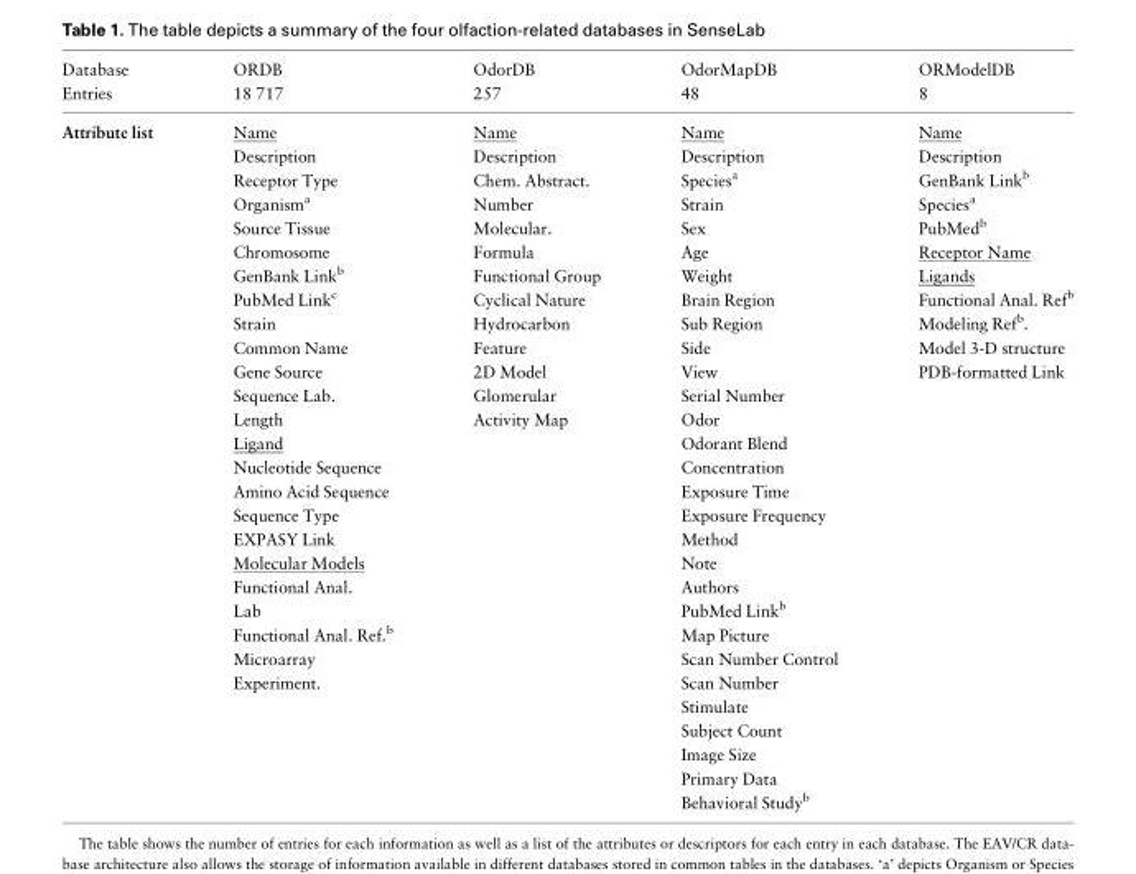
<table><thead><tr><td rowspan="2">Database Entries</td><td rowspan="2">ORDB 18 717</td><td rowspan="2">OdorDB 257</td><td rowspan="2">OdorMapDB 48</td><td rowspan="2">ORModelDB 8</td></tr><tr></tr></thead><tbody><tr><td rowspan="29">Attribute list</td><td>Name</td><td>Name</td><td>Name</td><td>Name</td></tr><tr><td>Description</td><td>Description</td><td>Description</td><td>Description</td></tr><tr><td>Receptor Type</td><td>Chem. Abstract.</td><td>Species<sup>a</sup></td><td>GenBank Link<sup>b</sup></td></tr><tr><td>Organism<sup>a</sup></td><td>Number</td><td>Strain</td><td>Species<sup>a</sup></td></tr><tr><td>Source Tissue</td><td>Molecular.</td><td>Sex</td><td>PubMed<sup>b</sup></td></tr><tr><td>Chromosome</td><td>Formula</td><td>Age</td><td>Receptor Name</td></tr><tr><td>GenBank Link<sup>b</sup></td><td>Functional Group</td><td>Weight</td><td>Ligands</td></tr><tr><td>PubMed Link<sup>c</sup></td><td>Cyclical Nature</td><td>Brain Region</td><td>Functional Anal. Ref<sup>b</sup></td></tr><tr><td>Strain</td><td>Hydrocarbon</td><td>Sub Region</td><td>Modeling Ref<sup>b</sup>.</td></tr><tr><td>Common Name</td><td>Feature</td><td>Side</td><td>Model 3-D structure</td></tr><tr><td>Gene Source</td><td>2D Model</td><td>View</td><td>PDB-formatted Link</td></tr><tr><td>Sequence Lab.</td><td>Glomerular</td><td>Serial Number</td><td></td></tr><tr><td>Length</td><td>Activity Map</td><td>Odor</td><td></td></tr><tr><td>Ligand</td><td></td><td>Odorant Blend</td><td></td></tr><tr><td>Nucleotide Sequence</td><td></td><td>Concentration</td><td></td></tr><tr><td>Amino Acid Sequence</td><td></td><td>Exposure Time</td><td></td></tr><tr><td>Sequence Type</td><td></td><td>Exposure Frequency</td><td></td></tr><tr><td>EXPASY Link</td><td></td><td>Method</td><td></td></tr><tr><td>Molecular Models</td><td></td><td>Note</td><td></td></tr><tr><td>Functional Anal.</td><td></td><td>Authors</td><td></td></tr><tr><td>Lab</td><td></td><td>PubMed Link<sup>b</sup></td><td></td></tr><tr><td>Functional Anal. Ref.<sup>b</sup></td><td></td><td>Map Picture</td><td></td></tr><tr><td>Microarray</td><td></td><td>Scan Number Control</td><td></td></tr><tr><td>Experiment.</td><td></td><td>Scan Number</td><td></td></tr><tr><td></td><td></td><td>Stimulate</td><td></td></tr><tr><td></td><td></td><td>Subject Count</td><td></td></tr><tr><td></td><td></td><td>Image Size</td><td></td></tr><tr><td></td><td></td><td>Primary Data</td><td></td></tr><tr><td></td><td></td><td>Behavioral Study<sup>b</sup></td><td></td></tr></tbody></table>